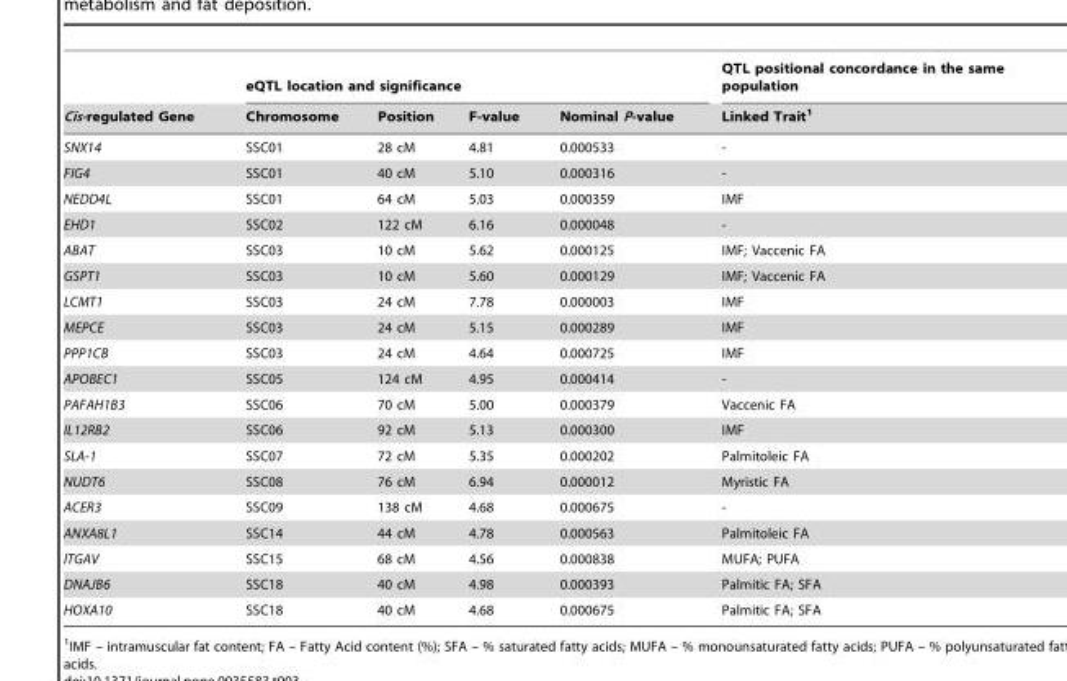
<table><thead><tr><td rowspan="2">Cis-regulated Gene</td><td colspan="4">eQTL location and significance</td><td rowspan="2">QTL positional concordance in the same population Linked Trait<sup>1</sup></td></tr><tr><td>Chromosome</td><td>Position</td><td>F-value</td><td>Nominal P-value</td></tr></thead><tbody><tr><td>SNX14</td><td>SSC01</td><td>28 cM</td><td>4.81</td><td>0.000533</td><td>-</td></tr><tr><td>FIG4</td><td>SSC01</td><td>40 cM</td><td>5.10</td><td>0.000316</td><td>-</td></tr><tr><td>NEDD4L</td><td>SSC01</td><td>64 cM</td><td>5.03</td><td>0.000359</td><td>IMF</td></tr><tr><td>EHD1</td><td>SSC02</td><td>122 cM</td><td>6.16</td><td>0.000048</td><td>-</td></tr><tr><td>ABAT</td><td>SSC03</td><td>10 cM</td><td>5.62</td><td>0.000125</td><td>IMF; Vaccenic FA</td></tr><tr><td>GSPT1</td><td>SSC03</td><td>10 cM</td><td>5.60</td><td>0.000129</td><td>IMF; Vaccenic FA</td></tr><tr><td>LCMT1</td><td>SSC03</td><td>24 cM</td><td>7.78</td><td>0.000003</td><td>IMF</td></tr><tr><td>MEPCE</td><td>SSC03</td><td>24 cM</td><td>5.15</td><td>0.000289</td><td>IMF</td></tr><tr><td>PPP1CB</td><td>SSC03</td><td>24 cM</td><td>4.64</td><td>0.000725</td><td>IMF</td></tr><tr><td>APOBEC1</td><td>SSC05</td><td>124 cM</td><td>4.95</td><td>0.000414</td><td>-</td></tr><tr><td>PAFAH1B3</td><td>SSC06</td><td>70 cM</td><td>5.00</td><td>0.000379</td><td>Vaccenic FA</td></tr><tr><td>IL12RB2</td><td>SSC06</td><td>92 cM</td><td>5.13</td><td>0.000300</td><td>IMF</td></tr><tr><td>SLA-1</td><td>SSC07</td><td>72 cM</td><td>5.35</td><td>0.000202</td><td>Palmitoleic FA</td></tr><tr><td>NUDT6</td><td>SSC08</td><td>76 cM</td><td>6.94</td><td>0.000012</td><td>Myristic FA</td></tr><tr><td>ACER3</td><td>SSC09</td><td>138 cM</td><td>4.68</td><td>0.000675</td><td>-</td></tr><tr><td>ANXA8L1</td><td>SSC14</td><td>44 cM</td><td>4.78</td><td>0.000563</td><td>Palmitoleic FA</td></tr><tr><td>ITGAV</td><td>SSC15</td><td>68 cM</td><td>4.56</td><td>0.000838</td><td>MUFA; PUFA</td></tr><tr><td>DNAJB6</td><td>SSC18</td><td>40 cM</td><td>4.98</td><td>0.000393</td><td>Palmitic FA; SFA</td></tr><tr><td>HOXA10</td><td>SSC18</td><td>40 cM</td><td>4.68</td><td>0.000675</td><td>Palmitic FA; SFA</td></tr></tbody></table>